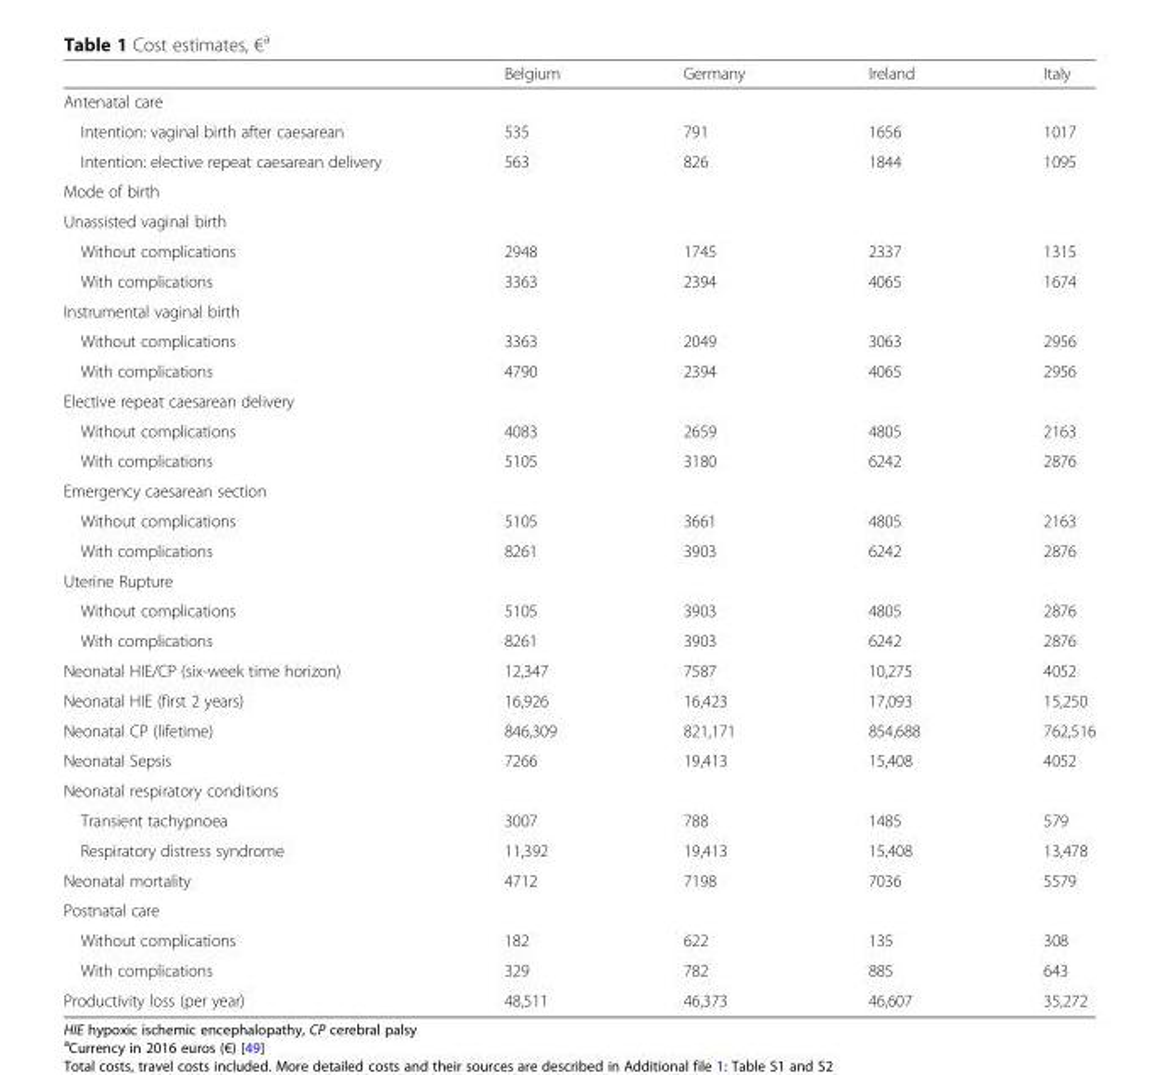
<table><thead><tr><td></td><td>Belgium</td><td>Germany</td><td>Ireland</td><td>Italy</td></tr></thead><tbody><tr><td colspan="5">Antenatal care</td></tr><tr><td>Intention: vaginal birth after caesarean</td><td>535</td><td>791</td><td>1656</td><td>1017</td></tr><tr><td>Intention: elective repeat caesarean delivery</td><td>563</td><td>826</td><td>1844</td><td>1095</td></tr><tr><td colspan="5">Mode of birth</td></tr><tr><td colspan="5">Unassisted vaginal birth</td></tr><tr><td>Without complications</td><td>2948</td><td>1745</td><td>2337</td><td>1315</td></tr><tr><td>With complications</td><td>3363</td><td>2394</td><td>4065</td><td>1674</td></tr><tr><td colspan="5">Instrumental vaginal birth</td></tr><tr><td>Without complications</td><td>3363</td><td>2049</td><td>3063</td><td>2956</td></tr><tr><td>With complications</td><td>4790</td><td>2394</td><td>4065</td><td>2956</td></tr><tr><td colspan="5">Elective repeat caesarean delivery</td></tr><tr><td>Without complications</td><td>4083</td><td>2659</td><td>4805</td><td>2163</td></tr><tr><td>With complications</td><td>5105</td><td>3180</td><td>6242</td><td>2876</td></tr><tr><td colspan="5">Emergency caesarean section</td></tr><tr><td>Without complications</td><td>5105</td><td>3661</td><td>4805</td><td>2163</td></tr><tr><td>With complications</td><td>8261</td><td>3903</td><td>6242</td><td>2876</td></tr><tr><td colspan="5">Uterine Rupture</td></tr><tr><td>Without complications</td><td>5105</td><td>3903</td><td>4805</td><td>2876</td></tr><tr><td>With complications</td><td>8261</td><td>3903</td><td>6242</td><td>2876</td></tr><tr><td>Neonatal HIE/CP (six-week time horizon)</td><td>12,347</td><td>7587</td><td>10,275</td><td>4052</td></tr><tr><td>Neonatal HIE (first 2 years)</td><td>16,926</td><td>16,423</td><td>17,093</td><td>15,250</td></tr><tr><td>Neonatal CP (lifetime)</td><td>846,309</td><td>821,171</td><td>854,688</td><td>762,516</td></tr><tr><td>Neonatal Sepsis</td><td>7266</td><td>19,413</td><td>15,408</td><td>4052</td></tr><tr><td colspan="5">Neonatal respiratory conditions</td></tr><tr><td>Transient tachypnoea</td><td>3007</td><td>788</td><td>1485</td><td>579</td></tr><tr><td>Respiratory distress syndrome</td><td>11,392</td><td>19,413</td><td>15,408</td><td>13,478</td></tr><tr><td>Neonatal mortality</td><td>4712</td><td>7198</td><td>7036</td><td>5579</td></tr><tr><td colspan="5">Postnatal care</td></tr><tr><td>Without complications</td><td>182</td><td>622</td><td>135</td><td>308</td></tr><tr><td>With complications</td><td>329</td><td>782</td><td>885</td><td>643</td></tr><tr><td>Productivity loss (per year)</td><td>48,511</td><td>46,373</td><td>46,607</td><td>35,272</td></tr></tbody></table>